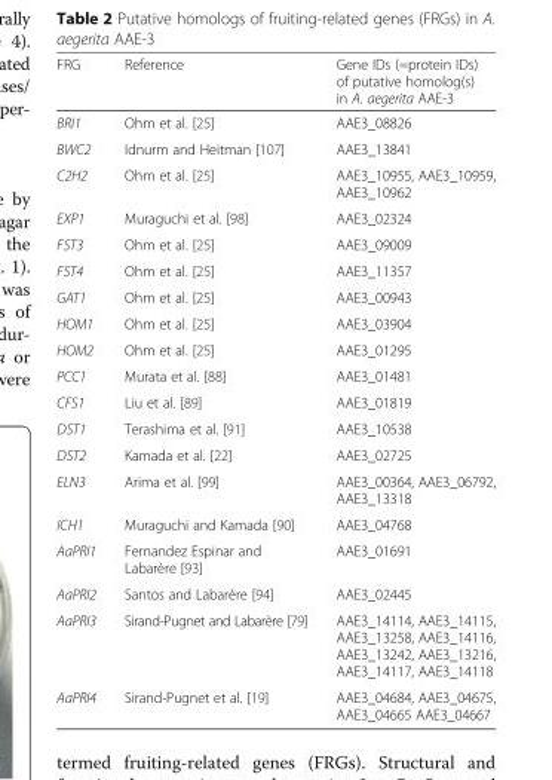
<table><thead><tr><td>FRG</td><td>Reference</td><td>Gene IDs (=protein IDs) of putative homolog(s) in A. aegerita AAE-3</td></tr></thead><tbody><tr><td>BRI1</td><td>Ohm et al. [25]</td><td>AAE3_08826</td></tr><tr><td>BWC2</td><td>Idnurm and Heitman [107]</td><td>AAE3_13841</td></tr><tr><td>C2H2</td><td>Ohm et al. [25]</td><td>AAE3_10955, AAE3_10959, AAE3_10962</td></tr><tr><td>EXP1</td><td>Muraguchi et al. [98]</td><td>AAE3_02324</td></tr><tr><td>FST3</td><td>Ohm et al. [25]</td><td>AAE3_09009</td></tr><tr><td>FST4</td><td>Ohm et al. [25]</td><td>AAE3_11357</td></tr><tr><td>GAT1</td><td>Ohm et al. [25]</td><td>AAE3_00943</td></tr><tr><td>HOM1</td><td>Ohm et al. [25]</td><td>AAE3_03904</td></tr><tr><td>HOM2</td><td>Ohm et al. [25]</td><td>AAE3_01295</td></tr><tr><td>PCC1</td><td>Murata et al. [88]</td><td>AAE3_01481</td></tr><tr><td>CFS1</td><td>Liu et al. [89]</td><td>AAE3_01819</td></tr><tr><td>DST1</td><td>Terashima et al. [91]</td><td>AAE3_10538</td></tr><tr><td>DST2</td><td>Kamada et al. [22]</td><td>AAE3_02725</td></tr><tr><td>ELN3</td><td>Arima et al. [99]</td><td>AAE3_00364, AAE3_06792, AAE3_13318</td></tr><tr><td>ICH1</td><td>Muraguchi and Kamada [90]</td><td>AAE3_04768</td></tr><tr><td>AaPRI1</td><td>Fernandez Espinar and Labarère [93]</td><td>AAE3_01691</td></tr><tr><td>AaPRI2</td><td>Santos and Labarère [94]</td><td>AAE3_02445</td></tr><tr><td>AaPRI3</td><td>Sirand-Pugnet and Labarère [79]</td><td>AAE3_14114, AAE3_14115, AAE3_13258, AAE3_14116, AAE3_13242, AAE3_13216, AAE3_14117, AAE3_14118</td></tr><tr><td>AaPRI4</td><td>Sirand-Pugnet et al. [19]</td><td>AAE3_04684, AAE3_04675, AAE3_04665 AAE3_04667</td></tr></tbody></table>